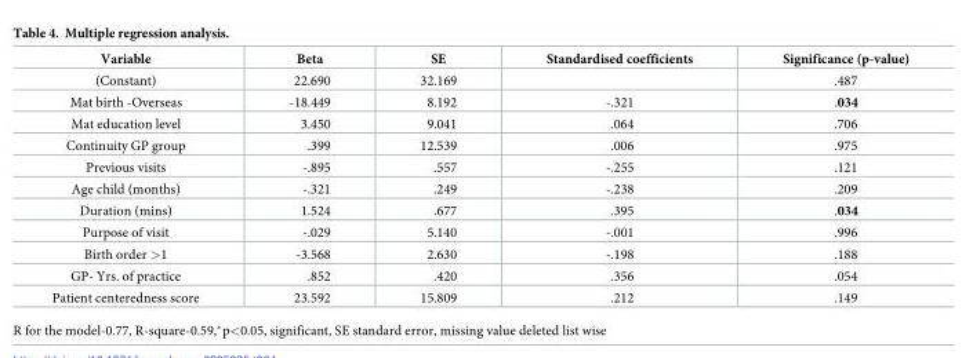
<table><thead><tr><td>Variable</td><td>Beta</td><td>SE</td><td>Standardised coefficients</td><td>Significance (p-value)</td></tr></thead><tbody><tr><td>(Constant)</td><td>22.690</td><td>32.169</td><td></td><td>.487</td></tr><tr><td>Mat birth -Overseas</td><td>-18.449</td><td>8.192</td><td>-.321</td><td>.034</td></tr><tr><td>Mat education level</td><td>3.450</td><td>9.041</td><td>.064</td><td>.706</td></tr><tr><td>Continuity GP group</td><td>.399</td><td>12.539</td><td>.006</td><td>.975</td></tr><tr><td>Previous visits</td><td>-.895</td><td>.557</td><td>-.255</td><td>.121</td></tr><tr><td>Age child (months)</td><td>-.321</td><td>.249</td><td>-.238</td><td>.209</td></tr><tr><td>Duration (mins)</td><td>1.524</td><td>.677</td><td>.395</td><td>.034</td></tr><tr><td>Purpose of visit</td><td>-.029</td><td>5.140</td><td>-.001</td><td>.996</td></tr><tr><td>Birth order &gt;1</td><td>-3.568</td><td>2.630</td><td>-.198</td><td>.188</td></tr><tr><td>GP- Yrs. of practice</td><td>.852</td><td>.420</td><td>.356</td><td>.054</td></tr><tr><td>Patient centeredness score</td><td>23.592</td><td>15.809</td><td>.212</td><td>.149</td></tr></tbody></table>